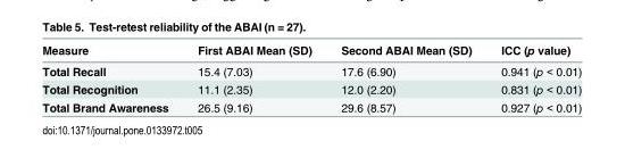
<table><thead><tr><td>Measure</td><td>First ABAI Mean (SD)</td><td>Second ABAI Mean (SD)</td><td>ICC (p value)</td></tr></thead><tbody><tr><td>Total Recall</td><td>15.4 (7.03)</td><td>17.6 (6.90)</td><td>0.941 (p &lt; 0.01)</td></tr><tr><td>Total Recognition</td><td>11.1 (2.35)</td><td>12.0 (2.20)</td><td>0.831 (p &lt; 0.01)</td></tr><tr><td>Total Brand Awareness</td><td>26.5 (9.16)</td><td>29.6 (8.57)</td><td>0.927 (p &lt; 0.01)</td></tr></tbody></table>